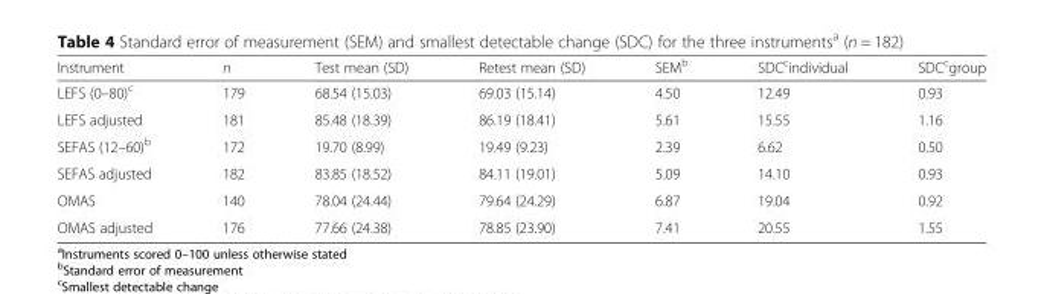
<table><thead><tr><td>Instrument</td><td>n</td><td>Test mean (SD)</td><td>Retest mean (SD)</td><td>SEM<sup>b</sup></td><td>SDC<sup>c</sup>individual</td><td>SDC<sup>c</sup>group</td></tr></thead><tbody><tr><td>LEFS (0–80)<sup>c</sup></td><td>179</td><td>68.54 (15.03)</td><td>69.03 (15.14)</td><td>4.50</td><td>12.49</td><td>0.93</td></tr><tr><td>LEFS adjusted</td><td>181</td><td>85.48 (18.39)</td><td>86.19 (18.41)</td><td>5.61</td><td>15.55</td><td>1.16</td></tr><tr><td>SEFAS (12–60)<sup>b</sup></td><td>172</td><td>19.70 (8.99)</td><td>19.49 (9.23)</td><td>2.39</td><td>6.62</td><td>0.50</td></tr><tr><td>SEFAS adjusted</td><td>182</td><td>83.85 (18.52)</td><td>84.11 (19.01)</td><td>5.09</td><td>14.10</td><td>0.93</td></tr><tr><td>OMAS</td><td>140</td><td>78.04 (24.44)</td><td>79.64 (24.29)</td><td>6.87</td><td>19.04</td><td>0.92</td></tr><tr><td>OMAS adjusted</td><td>176</td><td>77.66 (24.38)</td><td>78.85 (23.90)</td><td>7.41</td><td>20.55</td><td>1.55</td></tr></tbody></table>